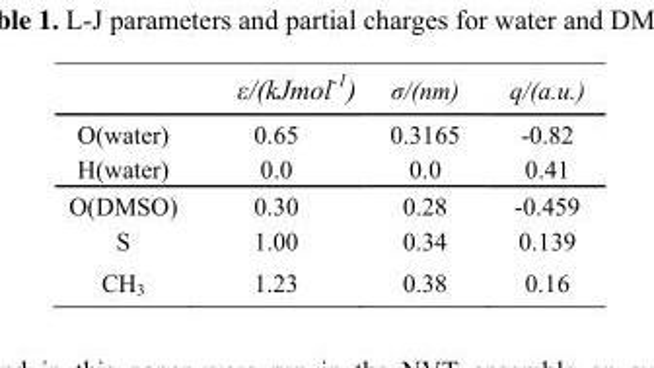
<table><thead><tr><td></td><td>ε/(kJmol-1)</td><td>σ/(nm)</td><td>q/(a.u.)</td></tr></thead><tbody><tr><td>O(water)</td><td>0.65</td><td>0.3165</td><td>-0.82</td></tr><tr><td>H(water)</td><td>0.0</td><td>0.0</td><td>0.41</td></tr><tr><td>O(DMSO)</td><td>0.30</td><td>0.28</td><td>-0.459</td></tr><tr><td>S</td><td>1.00</td><td>0.34</td><td>0.139</td></tr><tr><td>CH<sub>3</sub></td><td>1.23</td><td>0.38</td><td>0.16</td></tr></tbody></table>